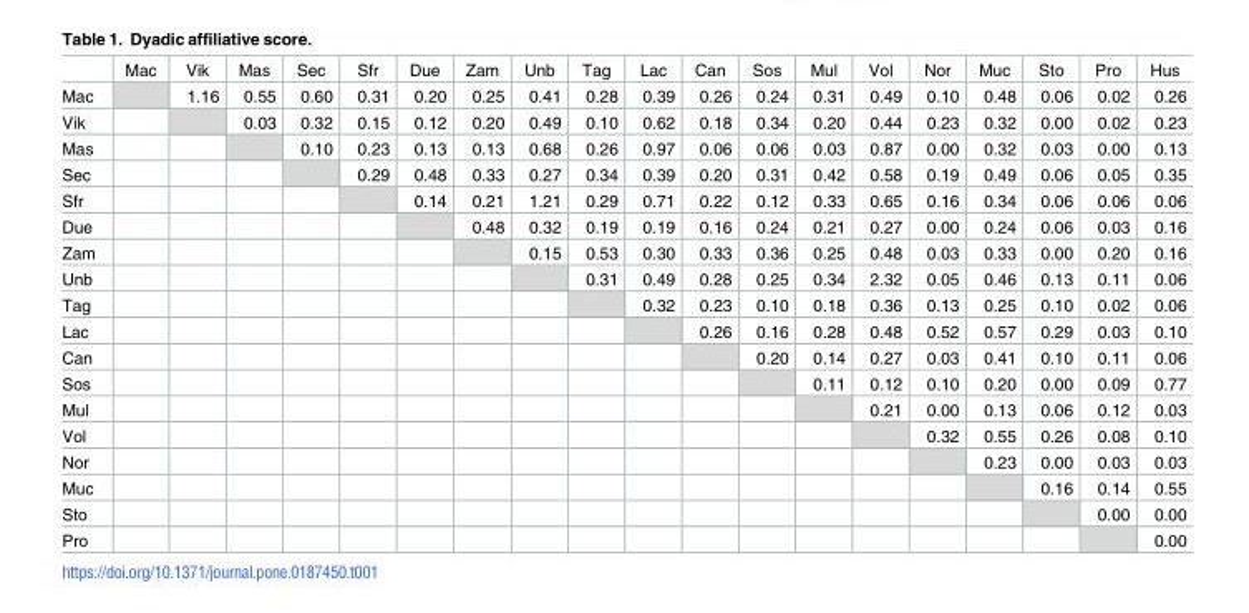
<table><thead><tr><td></td><td>Mac</td><td>Vik</td><td>Mas</td><td>Sec</td><td>Sfr</td><td>Due</td><td>Zam</td><td>Unb</td><td>Tag</td><td>Lac</td><td>Can</td><td>Sos</td><td>Mul</td><td>Vol</td><td>Nor</td><td>Muc</td><td>Sto</td><td>Pro</td><td>Hus</td></tr></thead><tbody><tr><td>Mac</td><td></td><td>1.16</td><td>0.55</td><td>0.60</td><td>0.31</td><td>0.20</td><td>0.25</td><td>0.41</td><td>0.28</td><td>0.39</td><td>0.26</td><td>0.24</td><td>0.31</td><td>0.49</td><td>0.10</td><td>0.48</td><td>0.06</td><td>0.02</td><td>0.26</td></tr><tr><td>Vik</td><td></td><td></td><td>0.03</td><td>0.32</td><td>0.15</td><td>0.12</td><td>0.20</td><td>0.49</td><td>0.10</td><td>0.62</td><td>0.18</td><td>0.34</td><td>0.20</td><td>0.44</td><td>0.23</td><td>0.32</td><td>0.00</td><td>0.02</td><td>0.23</td></tr><tr><td>Mas</td><td></td><td></td><td></td><td>0.10</td><td>0.23</td><td>0.13</td><td>0.13</td><td>0.68</td><td>0.26</td><td>0.97</td><td>0.06</td><td>0.06</td><td>0.03</td><td>0.87</td><td>0.00</td><td>0.32</td><td>0.03</td><td>0.00</td><td>0.13</td></tr><tr><td>Sec</td><td></td><td></td><td></td><td></td><td>0.29</td><td>0.48</td><td>0.33</td><td>0.27</td><td>0.34</td><td>0.39</td><td>0.20</td><td>0.31</td><td>0.42</td><td>0.58</td><td>0.19</td><td>0.49</td><td>0.06</td><td>0.05</td><td>0.35</td></tr><tr><td>Sfr</td><td></td><td></td><td></td><td></td><td></td><td>0.14</td><td>0.21</td><td>1.21</td><td>0.29</td><td>0.71</td><td>0.22</td><td>0.12</td><td>0.33</td><td>0.65</td><td>0.16</td><td>0.34</td><td>0.06</td><td>0.06</td><td>0.06</td></tr><tr><td>Due</td><td></td><td></td><td></td><td></td><td></td><td></td><td>0.48</td><td>0.32</td><td>0.19</td><td>0.19</td><td>0.16</td><td>0.24</td><td>0.21</td><td>0.27</td><td>0.00</td><td>0.24</td><td>0.06</td><td>0.03</td><td>0.16</td></tr><tr><td>Zam</td><td></td><td></td><td></td><td></td><td></td><td></td><td></td><td>0.15</td><td>0.53</td><td>0.30</td><td>0.33</td><td>0.36</td><td>0.25</td><td>0.48</td><td>0.03</td><td>0.33</td><td>0.00</td><td>0.20</td><td>0.16</td></tr><tr><td>Unb</td><td></td><td></td><td></td><td></td><td></td><td></td><td></td><td></td><td>0.31</td><td>0.49</td><td>0.28</td><td>0.25</td><td>0.34</td><td>2.32</td><td>0.05</td><td>0.46</td><td>0.13</td><td>0.11</td><td>0.06</td></tr><tr><td>Tag</td><td></td><td></td><td></td><td></td><td></td><td></td><td></td><td></td><td></td><td>0.32</td><td>0.23</td><td>0.10</td><td>0.18</td><td>0.36</td><td>0.13</td><td>0.25</td><td>0.10</td><td>0.02</td><td>0.06</td></tr><tr><td>Lac</td><td></td><td></td><td></td><td></td><td></td><td></td><td></td><td></td><td></td><td></td><td>0.26</td><td>0.16</td><td>0.28</td><td>0.48</td><td>0.52</td><td>0.57</td><td>0.29</td><td>0.03</td><td>0.10</td></tr><tr><td>Can</td><td></td><td></td><td></td><td></td><td></td><td></td><td></td><td></td><td></td><td></td><td></td><td>0.20</td><td>0.14</td><td>0.27</td><td>0.03</td><td>0.41</td><td>0.10</td><td>0.11</td><td>0.06</td></tr><tr><td>Sos</td><td></td><td></td><td></td><td></td><td></td><td></td><td></td><td></td><td></td><td></td><td></td><td></td><td>0.11</td><td>0.12</td><td>0.10</td><td>0.20</td><td>0.00</td><td>0.09</td><td>0.77</td></tr><tr><td>Mul</td><td></td><td></td><td></td><td></td><td></td><td></td><td></td><td></td><td></td><td></td><td></td><td></td><td></td><td>0.21</td><td>0.00</td><td>0.13</td><td>0.06</td><td>0.12</td><td>0.03</td></tr><tr><td>Vol</td><td></td><td></td><td></td><td></td><td></td><td></td><td></td><td></td><td></td><td></td><td></td><td></td><td></td><td></td><td>0.32</td><td>0.55</td><td>0.26</td><td>0.08</td><td>0.10</td></tr><tr><td>Nor</td><td></td><td></td><td></td><td></td><td></td><td></td><td></td><td></td><td></td><td></td><td></td><td></td><td></td><td></td><td></td><td>0.23</td><td>0.00</td><td>0.03</td><td>0.03</td></tr><tr><td>Muc</td><td></td><td></td><td></td><td></td><td></td><td></td><td></td><td></td><td></td><td></td><td></td><td></td><td></td><td></td><td></td><td></td><td>0.16</td><td>0.14</td><td>0.55</td></tr><tr><td>Sto</td><td></td><td></td><td></td><td></td><td></td><td></td><td></td><td></td><td></td><td></td><td></td><td></td><td></td><td></td><td></td><td></td><td></td><td>0.00</td><td>0.00</td></tr><tr><td>Pro</td><td></td><td></td><td></td><td></td><td></td><td></td><td></td><td></td><td></td><td></td><td></td><td></td><td></td><td></td><td></td><td></td><td></td><td></td><td>0.00</td></tr></tbody></table>